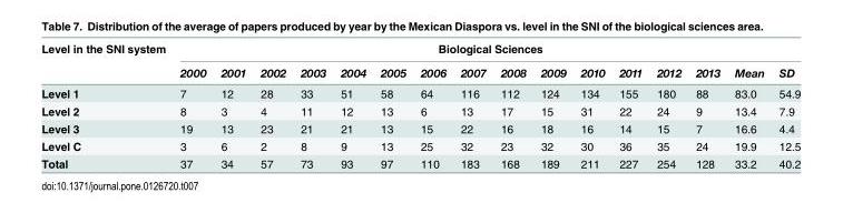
<table><thead><tr><td rowspan="2">Level in the SNI system</td><td colspan="16">Biological Sciences</td></tr><tr><td>2000</td><td>2001</td><td>2002</td><td>2003</td><td>2004</td><td>2005</td><td>2006</td><td>2007</td><td>2008</td><td>2009</td><td>2010</td><td>2011</td><td>2012</td><td>2013</td><td>Mean</td><td>SD</td></tr></thead><tbody><tr><td>Level 1</td><td>7</td><td>12</td><td>28</td><td>33</td><td>51</td><td>58</td><td>64</td><td>116</td><td>112</td><td>124</td><td>134</td><td>155</td><td>180</td><td>88</td><td>83.0</td><td>54.9</td></tr><tr><td>Level 2</td><td>8</td><td>3</td><td>4</td><td>11</td><td>12</td><td>13</td><td>6</td><td>13</td><td>17</td><td>15</td><td>31</td><td>22</td><td>24</td><td>9</td><td>13.4</td><td>7.9</td></tr><tr><td>Level 3</td><td>19</td><td>13</td><td>23</td><td>21</td><td>21</td><td>13</td><td>15</td><td>22</td><td>16</td><td>18</td><td>16</td><td>14</td><td>15</td><td>7</td><td>16.6</td><td>4.4</td></tr><tr><td>Level C</td><td>3</td><td>6</td><td>2</td><td>8</td><td>9</td><td>13</td><td>25</td><td>32</td><td>23</td><td>32</td><td>30</td><td>36</td><td>35</td><td>24</td><td>19.9</td><td>12.5</td></tr><tr><td>Total</td><td>37</td><td>34</td><td>57</td><td>73</td><td>93</td><td>97</td><td>110</td><td>183</td><td>168</td><td>189</td><td>211</td><td>227</td><td>254</td><td>128</td><td>33.2</td><td>40.2</td></tr></tbody></table>